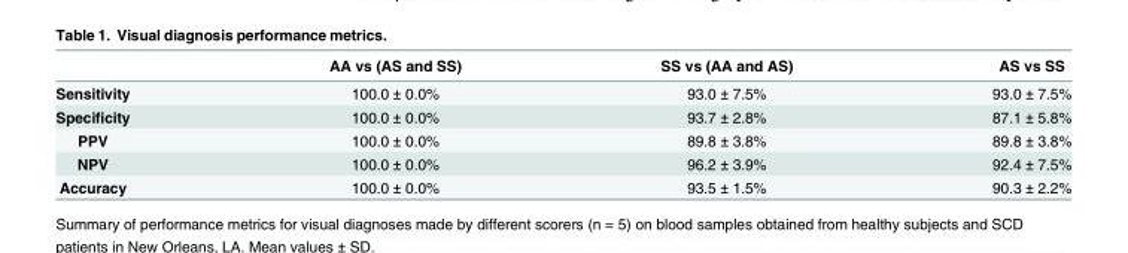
<table><thead><tr><td></td><td>AA vs (AS and SS)</td><td>SS vs (AA and AS)</td><td>AS vs SS</td></tr></thead><tbody><tr><td>Sensitivity</td><td>100.0 ± 0.0%</td><td>93.0 ± 7.5%</td><td>93.0 ± 7.5%</td></tr><tr><td>Specificity</td><td>100.0 ± 0.0%</td><td>93.7 ± 2.8%</td><td>87.1 ± 5.8%</td></tr><tr><td>PPV</td><td>100.0 ± 0.0%</td><td>89.8 ± 3.8%</td><td>89.8 ± 3.8%</td></tr><tr><td>NPV</td><td>100.0 ± 0.0%</td><td>96.2 ± 3.9%</td><td>92.4 ± 7.5%</td></tr><tr><td>Accuracy</td><td>100.0 ± 0.0%</td><td>93.5 ± 1.5%</td><td>90.3 ± 2.2%</td></tr></tbody></table>